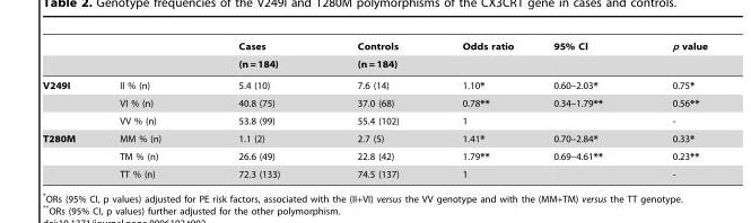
<table><thead><tr><td rowspan="2"></td><td rowspan="2"></td><td rowspan="2">Cases (n = 184)</td><td rowspan="2">Controls (n = 184)</td><td rowspan="2">Odds ratio</td><td rowspan="2">95% Cl</td><td rowspan="2">p value</td></tr><tr></tr></thead><tbody><tr><td rowspan="3">V249I</td><td>II % (n)</td><td>5.4 (10)</td><td>7.6 (14)</td><td>1.10*</td><td>0.60–2.03*</td><td>0.75*</td></tr><tr><td>VI % (n)</td><td>40.8 (75)</td><td>37.0 (68)</td><td>0.78**</td><td>0.34–1.79**</td><td>0.56**</td></tr><tr><td>VV % (n)</td><td>53.8 (99)</td><td>55.4 (102)</td><td>1</td><td></td><td>-</td></tr><tr><td rowspan="3">T280M</td><td>MM % (n)</td><td>1.1 (2)</td><td>2.7 (5)</td><td>1.41*</td><td>0.70–2.84*</td><td>0.33*</td></tr><tr><td>TM % (n)</td><td>26.6 (49)</td><td>22.8 (42)</td><td>1.79**</td><td>0.69–4.61**</td><td>0.23**</td></tr><tr><td>TT % (n)</td><td>72.3 (133)</td><td>74.5 (137)</td><td>1</td><td></td><td>-</td></tr></tbody></table>